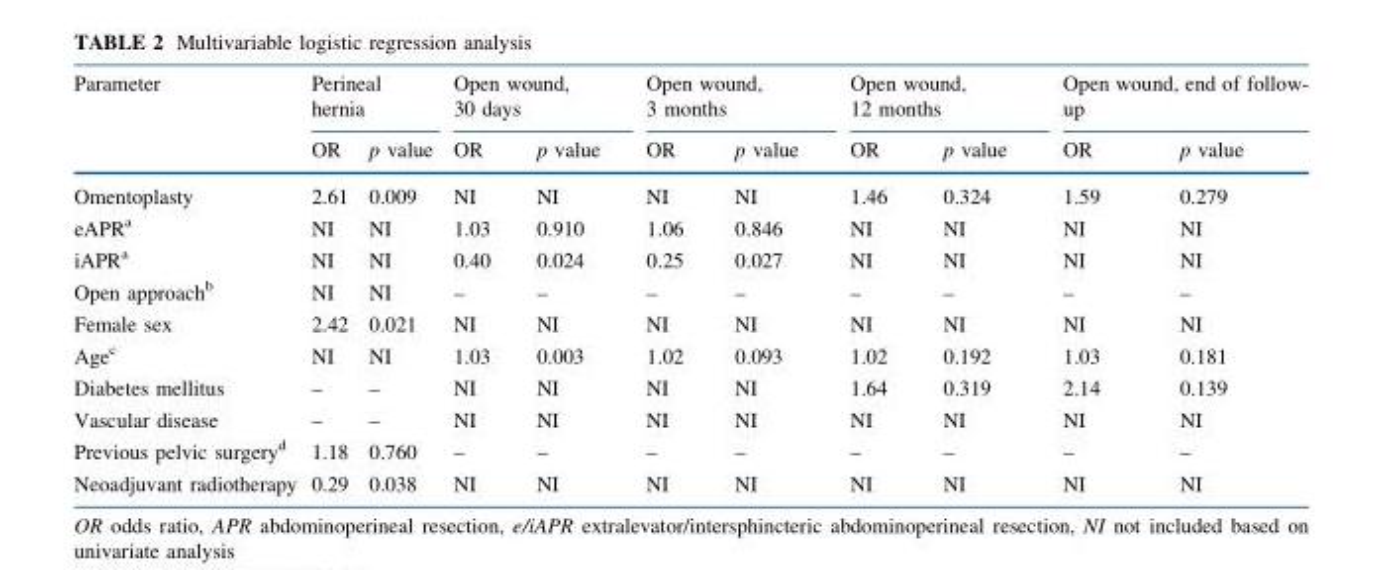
<table><thead><tr><td rowspan="2">Parameter</td><td colspan="2">Perineal hernia</td><td colspan="2">Open wound, 30 days</td><td colspan="2">Open wound, 3 months</td><td colspan="2">Open wound, 12 months</td><td colspan="2">Open wound, end of follow- up</td></tr><tr><td>OR</td><td>p value</td><td>OR</td><td>p value</td><td>OR</td><td>p value</td><td>OR</td><td>p value</td><td>OR</td><td>p value</td></tr></thead><tbody><tr><td>Omentoplasty</td><td>2.61</td><td>0.009</td><td>NI</td><td>NI</td><td>NI</td><td>NI</td><td>1.46</td><td>0.324</td><td>1.59</td><td>0.279</td></tr><tr><td>eAPR<sup>a</sup></td><td>NI</td><td>NI</td><td>1.03</td><td>0.910</td><td>1.06</td><td>0.846</td><td>NI</td><td>NI</td><td>NI</td><td>NI</td></tr><tr><td>iAPR<sup>a</sup></td><td>NI</td><td>NI</td><td>0.40</td><td>0.024</td><td>0.25</td><td>0.027</td><td>NI</td><td>NI</td><td>NI</td><td>NI</td></tr><tr><td>Open approach<sup>b</sup></td><td>NI</td><td>NI</td><td>–</td><td>–</td><td>–</td><td>–</td><td>–</td><td>–</td><td>–</td><td>–</td></tr><tr><td>Female sex</td><td>2.42</td><td>0.021</td><td>NI</td><td>NI</td><td>NI</td><td>NI</td><td>NI</td><td>NI</td><td>NI</td><td>NI</td></tr><tr><td>Age<sup>c</sup></td><td>NI</td><td>NI</td><td>1.03</td><td>0.003</td><td>1.02</td><td>0.093</td><td>1.02</td><td>0.192</td><td>1.03</td><td>0.181</td></tr><tr><td>Diabetes mellitus</td><td>–</td><td>–</td><td>NI</td><td>NI</td><td>NI</td><td>NI</td><td>1.64</td><td>0.319</td><td>2.14</td><td>0.139</td></tr><tr><td>Vascular disease</td><td>–</td><td>–</td><td>NI</td><td>NI</td><td>NI</td><td>NI</td><td>NI</td><td>NI</td><td>NI</td><td>NI</td></tr><tr><td>Previous pelvic surgery<sup>d</sup></td><td>1.18</td><td>0.760</td><td>–</td><td>–</td><td>–</td><td>–</td><td>–</td><td>–</td><td>–</td><td>–</td></tr><tr><td>Neoadjuvant radiotherapy</td><td>0.29</td><td>0.038</td><td>NI</td><td>NI</td><td>NI</td><td>NI</td><td>NI</td><td>NI</td><td>NI</td><td>NI</td></tr></tbody></table>